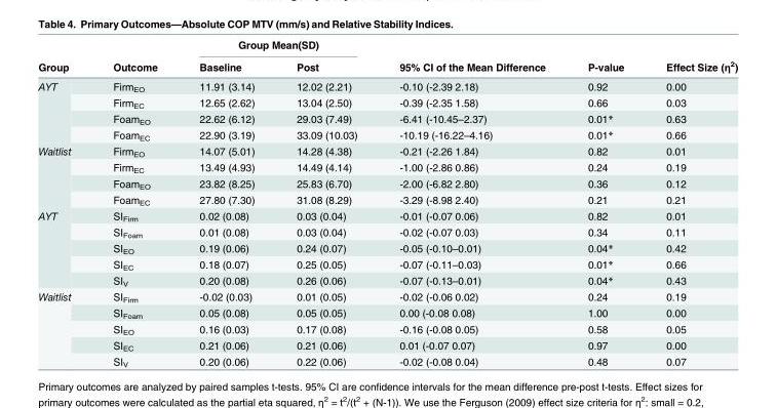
<table><thead><tr><td rowspan="2">Group</td><td rowspan="2">Outcome</td><td colspan="2">Group Mean(SD)</td><td rowspan="2">95% CI of the Mean Difference</td><td rowspan="2">P-value</td><td rowspan="2">Effect Size (η<sup>2</sup>)</td></tr><tr><td>Baseline</td><td>Post</td></tr></thead><tbody><tr><td rowspan="4">AYT</td><td>Firm<sub>EO</sub></td><td>11.91 (3.14)</td><td>12.02 (2.21)</td><td>-0.10 (-2.39 2.18)</td><td>0.92</td><td>0.00</td></tr><tr><td>Firm<sub>EC</sub></td><td>12.65 (2.62)</td><td>13.04 (2.50)</td><td>-0.39 (-2.35 1.58)</td><td>0.66</td><td>0.03</td></tr><tr><td>Foam<sub>EO</sub></td><td>22.62 (6.12)</td><td>29.03 (7.49)</td><td>-6.41 (-10.45–2.37)</td><td>0.01*</td><td>0.63</td></tr><tr><td>Foam<sub>EC</sub></td><td>22.90 (3.19)</td><td>33.09 (10.03)</td><td>-10.19 (-16.22–4.16)</td><td>0.01*</td><td>0.66</td></tr><tr><td rowspan="4">Waitlist</td><td>Firm<sub>EO</sub></td><td>14.07 (5.01)</td><td>14.28 (4.38)</td><td>-0.21 (-2.26 1.84)</td><td>0.82</td><td>0.01</td></tr><tr><td>Firm<sub>EC</sub></td><td>13.49 (4.93)</td><td>14.49 (4.14)</td><td>-1.00 (-2.86 0.86)</td><td>0.24</td><td>0.19</td></tr><tr><td>Foam<sub>EO</sub></td><td>23.82 (8.25)</td><td>25.83 (6.70)</td><td>-2.00 (-6.82 2.80)</td><td>0.36</td><td>0.12</td></tr><tr><td>Foam<sub>EC</sub></td><td>27.80 (7.30)</td><td>31.08 (8.29)</td><td>-3.29 (-8.98 2.40)</td><td>0.21</td><td>0.21</td></tr><tr><td rowspan="5">AYT</td><td>SI<sub>Firm</sub></td><td>0.02 (0.08)</td><td>0.03 (0.04)</td><td>-0.01 (-0.07 0.06)</td><td>0.82</td><td>0.01</td></tr><tr><td>SI<sub>Foam</sub></td><td>0.01 (0.08)</td><td>0.03 (0.04)</td><td>-0.02 (-0.07 0.03)</td><td>0.34</td><td>0.11</td></tr><tr><td>SI<sub>EO</sub></td><td>0.19 (0.06)</td><td>0.24 (0.07)</td><td>-0.05 (-0.10–0.01)</td><td>0.04*</td><td>0.42</td></tr><tr><td>SI<sub>EC</sub></td><td>0.18 (0.07)</td><td>0.25 (0.05)</td><td>-0.07 (-0.11–0.03)</td><td>0.01*</td><td>0.66</td></tr><tr><td>SI<sub>V</sub></td><td>0.20 (0.08)</td><td>0.26 (0.06)</td><td>-0.07 (-0.13–0.01)</td><td>0.04*</td><td>0.43</td></tr><tr><td rowspan="5">Waitlist</td><td>SI<sub>Firm</sub></td><td>-0.02 (0.03)</td><td>0.01 (0.05)</td><td>-0.02 (-0.06 0.02)</td><td>0.24</td><td>0.19</td></tr><tr><td>SI<sub>Foam</sub></td><td>0.05 (0.08)</td><td>0.05 (0.05)</td><td>0.00 (-0.08 0.08)</td><td>1.00</td><td>0.00</td></tr><tr><td>SI<sub>EO</sub></td><td>0.16 (0.03)</td><td>0.17 (0.08)</td><td>-0.16 (-0.08 0.05)</td><td>0.58</td><td>0.05</td></tr><tr><td>SI<sub>EC</sub></td><td>0.21 (0.06)</td><td>0.21 (0.06)</td><td>0.01 (-0.07 0.07)</td><td>0.97</td><td>0.00</td></tr><tr><td>SI<sub>V</sub></td><td>0.20 (0.06)</td><td>0.22 (0.06)</td><td>-0.02 (-0.08 0.04)</td><td>0.48</td><td>0.07</td></tr></tbody></table>